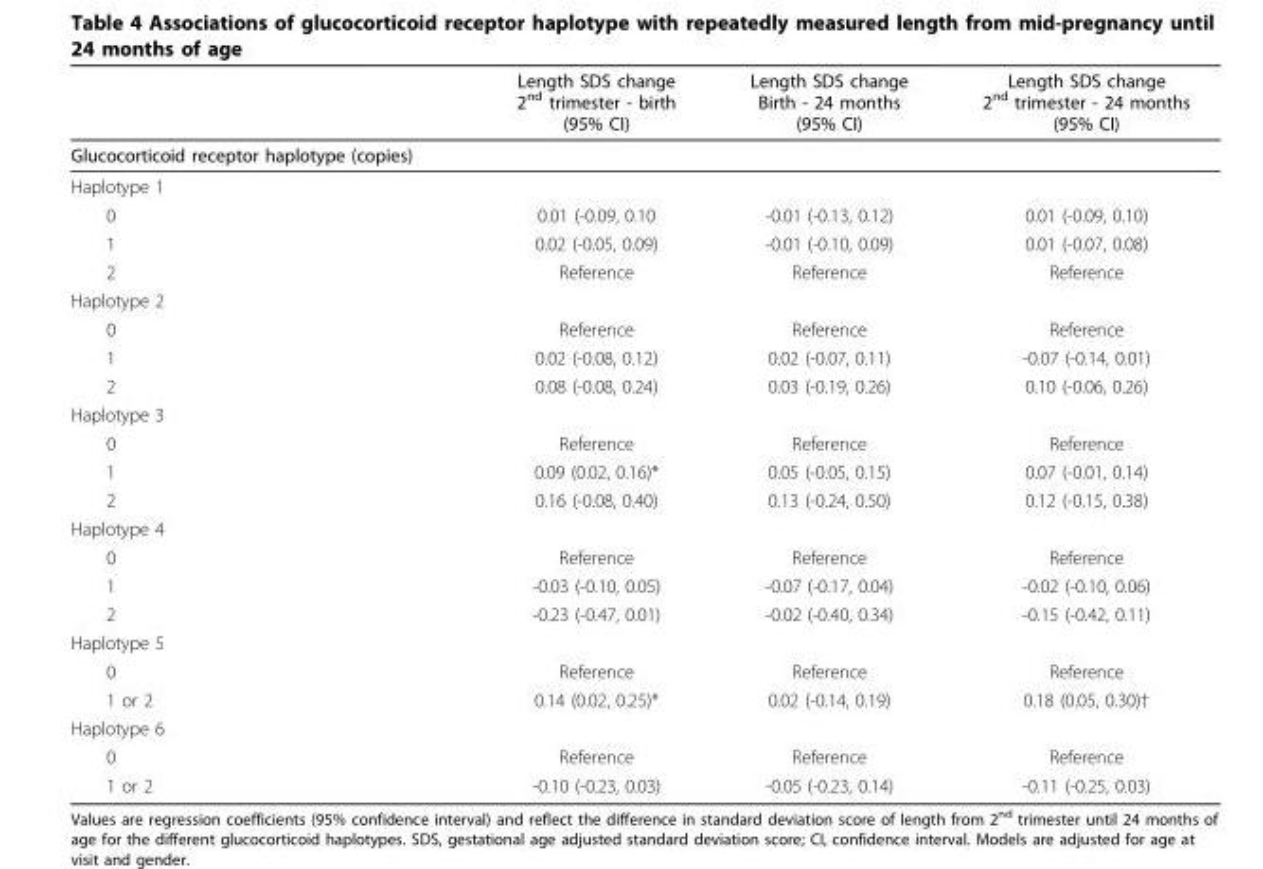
<table><thead><tr><td></td><td>Length SDS change 2<sup>nd</sup> trimester - birth (95% CI)</td><td>Length SDS change Birth - 24 months (95% CI)</td><td>Length SDS change 2<sup>nd</sup> trimester - 24 months (95% CI)</td></tr></thead><tbody><tr><td colspan="4">Glucocorticoid receptor haplotype (copies)</td></tr><tr><td colspan="4">Haplotype 1</td></tr><tr><td>0</td><td>0.01 (-0.09, 0.10</td><td>-0.01 (-0.13, 0.12)</td><td>0.01 (-0.09, 0.10)</td></tr><tr><td>1</td><td>0.02 (-0.05, 0.09)</td><td>-0.01 (-0.10, 0.09)</td><td>0.01 (-0.07, 0.08)</td></tr><tr><td>2</td><td>Reference</td><td>Reference</td><td>Reference</td></tr><tr><td colspan="4">Haplotype 2</td></tr><tr><td>0</td><td>Reference</td><td>Reference</td><td>Reference</td></tr><tr><td>1</td><td>0.02 (-0.08, 0.12)</td><td>0.02 (-0.07, 0.11)</td><td>-0.07 (-0.14, 0.01)</td></tr><tr><td>2</td><td>0.08 (-0.08, 0.24)</td><td>0.03 (-0.19, 0.26)</td><td>0.10 (-0.06, 0.26)</td></tr><tr><td colspan="4">Haplotype 3</td></tr><tr><td>0</td><td>Reference</td><td>Reference</td><td>Reference</td></tr><tr><td>1</td><td>0.09 (0.02, 0.16)*</td><td>0.05 (-0.05, 0.15)</td><td>0.07 (-0.01, 0.14)</td></tr><tr><td>2</td><td>0.16 (-0.08, 0.40)</td><td>0.13 (-0.24, 0.50)</td><td>0.12 (-0.15, 0.38)</td></tr><tr><td colspan="4">Haplotype 4</td></tr><tr><td>0</td><td>Reference</td><td>Reference</td><td>Reference</td></tr><tr><td>1</td><td>-0.03 (-0.10, 0.05)</td><td>-0.07 (-0.17, 0.04)</td><td>-0.02 (-0.10, 0.06)</td></tr><tr><td>2</td><td>-0.23 (-0.47, 0.01)</td><td>-0.02 (-0.40, 0.34)</td><td>-0.15 (-0.42, 0.11)</td></tr><tr><td colspan="4">Haplotype 5</td></tr><tr><td>0</td><td>Reference</td><td>Reference</td><td>Reference</td></tr><tr><td>1 or 2</td><td>0.14 (0.02, 0.25)*</td><td>0.02 (-0.14, 0.19)</td><td>0.18 (0.05, 0.30)†</td></tr><tr><td colspan="4">Haplotype 6</td></tr><tr><td>0</td><td>Reference</td><td>Reference</td><td>Reference</td></tr><tr><td>1 or 2</td><td>-0.10 (-0.23, 0.03)</td><td>-0.05 (-0.23, 0.14)</td><td>-0.11 (-0.25, 0.03)</td></tr></tbody></table>